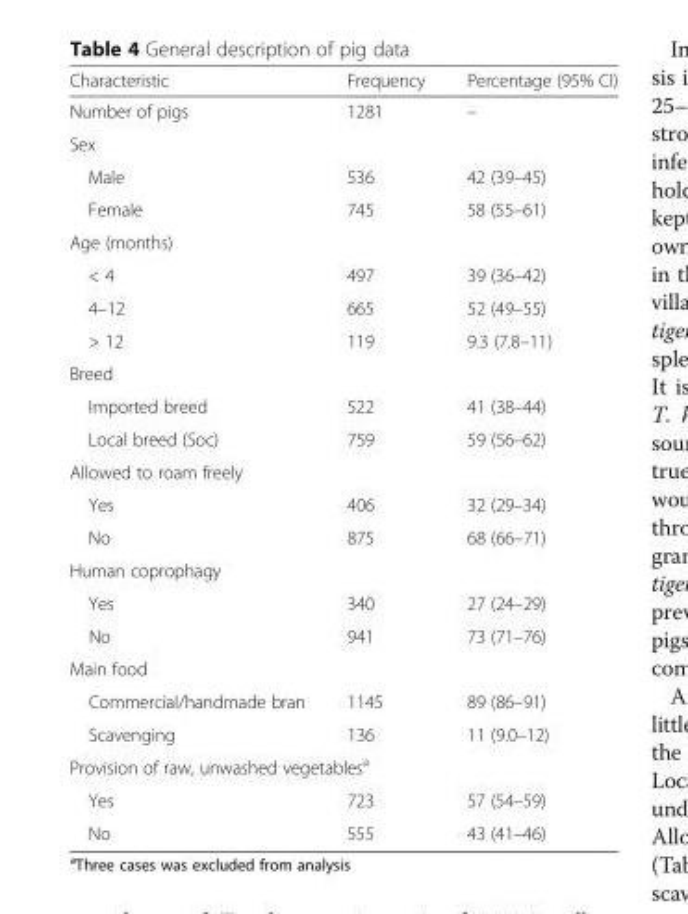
<table><thead><tr><td>Characteristic</td><td>Frequency</td><td>Percentage (95% CI)</td></tr></thead><tbody><tr><td>Number of pigs</td><td>1281</td><td>–</td></tr><tr><td colspan="3">Sex</td></tr><tr><td>Male</td><td>536</td><td>42 (39–45)</td></tr><tr><td>Female</td><td>745</td><td>58 (55–61)</td></tr><tr><td colspan="3">Age (months)</td></tr><tr><td>&lt; 4</td><td>497</td><td>39 (36–42)</td></tr><tr><td>4–12</td><td>665</td><td>52 (49–55)</td></tr><tr><td>&gt; 12</td><td>119</td><td>9.3 (7.8–11)</td></tr><tr><td colspan="3">Breed</td></tr><tr><td>Imported breed</td><td>522</td><td>41 (38–44)</td></tr><tr><td>Local breed (Soc)</td><td>759</td><td>59 (56–62)</td></tr><tr><td colspan="3">Allowed to roam freely</td></tr><tr><td>Yes</td><td>406</td><td>32 (29–34)</td></tr><tr><td>No</td><td>875</td><td>68 (66–71)</td></tr><tr><td colspan="3">Human coprophagy</td></tr><tr><td>Yes</td><td>340</td><td>27 (24–29)</td></tr><tr><td>No</td><td>941</td><td>73 (71–76)</td></tr><tr><td colspan="3">Main food</td></tr><tr><td>Commercial/handmade bran</td><td>1145</td><td>89 (86–91)</td></tr><tr><td>Scavenging</td><td>136</td><td>11 (9.0–12)</td></tr><tr><td colspan="3">Provision of raw, unwashed vegetables<sup>a</sup></td></tr><tr><td>Yes</td><td>723</td><td>57 (54–59)</td></tr><tr><td>No</td><td>555</td><td>43 (41–46)</td></tr></tbody></table>